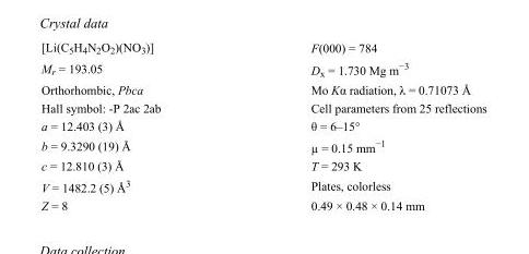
<table><tbody><tr><td>[Li(C<sub>5</sub>H<sub>4</sub>N<sub>2</sub>O<sub>2</sub>)(NO<sub>3</sub>)]</td><td>F(000) = 784</td></tr><tr><td>M<sub>r</sub> = 193.05</td><td>D<sub>x</sub> = 1.730 Mg m<sup>−3</sup></td></tr><tr><td>Orthorhombic, Pbca</td><td>Mo Kα radiation, λ = 0.71073 Å</td></tr><tr><td>Hall symbol: -P 2ac 2ab</td><td>Cell parameters from 25 reflections</td></tr><tr><td>a = 12.403 (3) Å</td><td>θ = 6–15°</td></tr><tr><td>b = 9.3290 (19) Å</td><td>µ = 0.15 mm<sup>−1</sup></td></tr><tr><td>c = 12.810 (3) Å</td><td>T = 293 K</td></tr><tr><td>V = 1482.2 (5) Å<sup>3</sup></td><td>Plates, colorless</td></tr><tr><td>Z = 8</td><td>0.49 × 0.48 × 0.14 mm</td></tr></tbody></table>